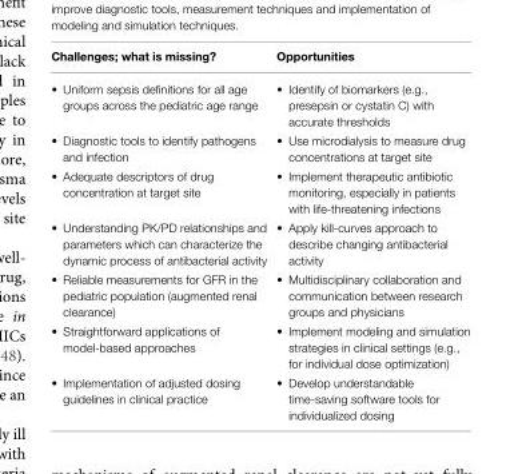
<table><thead><tr><td>Challenges; what is missing?</td><td>Opportunities</td></tr></thead><tbody><tr><td>• Uniform sepsis definitions for all age groups across the pediatric age range</td><td>• Identify of biomarkers (e.g., presepsin or cystatin C) with accurate thresholds</td></tr><tr><td>• Diagnostic tools to identify pathogens and infection</td><td>• Use microdialysis to measure drug concentrations at target site</td></tr><tr><td>• Adequate descriptors of drug concentration at target site</td><td>• Implement therapeutic antibiotic monitoring, especially in patients with life-threatening infections</td></tr><tr><td>• Understanding PK/PD relationships and parameters which can characterize the dynamic process of antibacterial activity</td><td>• Apply kill-curves approach to describe changing antibacterial activity</td></tr><tr><td>• Reliable measurements for GFR in the pediatric population (augmented renal clearance)</td><td>• Multidisciplinary collaboration and communication between research groups and physicians</td></tr><tr><td>• Straightforward applications of model-based approaches</td><td>• Implement modeling and simulation strategies in clinical settings (e.g., for individual dose optimization)</td></tr><tr><td>• Implementation of adjusted dosing guidelines in clinical practice</td><td>• Develop understandable time-saving software tools for individualized dosing</td></tr></tbody></table>